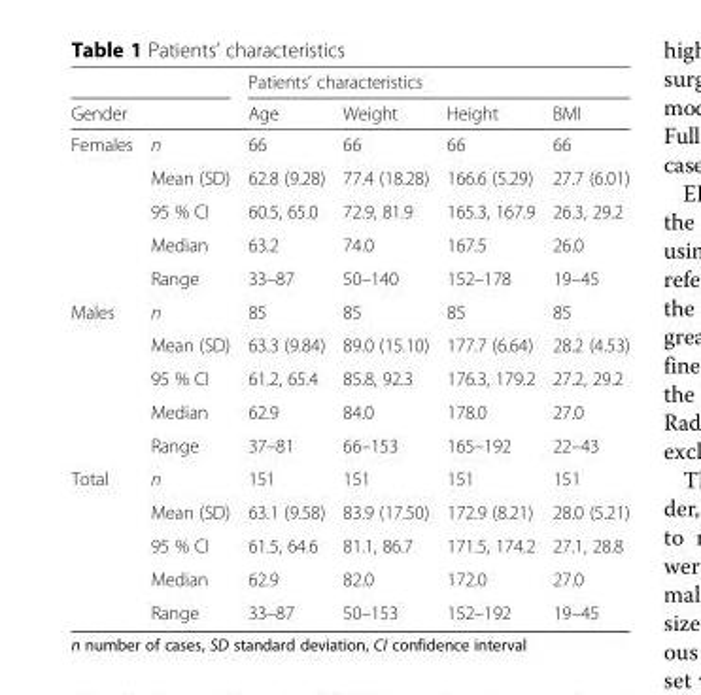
<table><thead><tr><td rowspan="2">Gender</td><td rowspan="2"></td><td colspan="4">Patients’ characteristics</td></tr><tr><td>Age</td><td>Weight</td><td>Height</td><td>BMI</td></tr></thead><tbody><tr><td rowspan="5">Females</td><td>n</td><td>66</td><td>66</td><td>66</td><td>66</td></tr><tr><td>Mean (SD)</td><td>62.8 (9.28)</td><td>77.4 (18.28)</td><td>166.6 (5.29)</td><td>27.7 (6.01)</td></tr><tr><td>95 % CI</td><td>60.5, 65.0</td><td>72.9, 81.9</td><td>165.3, 167.9</td><td>26.3, 29.2</td></tr><tr><td>Median</td><td>63.2</td><td>74.0</td><td>167.5</td><td>26.0</td></tr><tr><td>Range</td><td>33–87</td><td>50–140</td><td>152–178</td><td>19–45</td></tr><tr><td rowspan="5">Males</td><td>n</td><td>85</td><td>85</td><td>85</td><td>85</td></tr><tr><td>Mean (SD)</td><td>63.3 (9.84)</td><td>89.0 (15.10)</td><td>177.7 (6.64)</td><td>28.2 (4.53)</td></tr><tr><td>95 % CI</td><td>61.2, 65.4</td><td>85.8, 92.3</td><td>176.3, 179.2</td><td>27.2, 29.2</td></tr><tr><td>Median</td><td>62.9</td><td>84.0</td><td>178.0</td><td>27.0</td></tr><tr><td>Range</td><td>37–81</td><td>66–153</td><td>165–192</td><td>22–43</td></tr><tr><td rowspan="5">Total</td><td>n</td><td>151</td><td>151</td><td>151</td><td>151</td></tr><tr><td>Mean (SD)</td><td>63.1 (9.58)</td><td>83.9 (17.50)</td><td>172.9 (8.21)</td><td>28.0 (5.21)</td></tr><tr><td>95 % CI</td><td>61.5, 64.6</td><td>81.1, 86.7</td><td>171.5, 174.2</td><td>27.1, 28.8</td></tr><tr><td>Median</td><td>62.9</td><td>82.0</td><td>172.0</td><td>27.0</td></tr><tr><td>Range</td><td>33–87</td><td>50–153</td><td>152–192</td><td>19–45</td></tr></tbody></table>